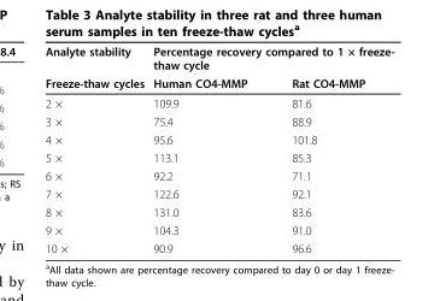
<table><thead><tr><td rowspan="2">Analyte stability Freeze-thaw cycles</td><td colspan="2">Percentage recovery compared to 1 × freeze- thaw cycle</td></tr><tr><td>Human CO4-MMP</td><td>Rat CO4-MMP</td></tr></thead><tbody><tr><td>2 ×</td><td>109.9</td><td>81.6</td></tr><tr><td>3 ×</td><td>75.4</td><td>88.9</td></tr><tr><td>4 ×</td><td>95.6</td><td>101.8</td></tr><tr><td>5 ×</td><td>113.1</td><td>85.3</td></tr><tr><td>6 ×</td><td>92.2</td><td>71.1</td></tr><tr><td>7 ×</td><td>122.6</td><td>92.1</td></tr><tr><td>8 ×</td><td>131.0</td><td>83.6</td></tr><tr><td>9 ×</td><td>104.3</td><td>91.0</td></tr><tr><td>10 ×</td><td>90.9</td><td>96.6</td></tr></tbody></table>